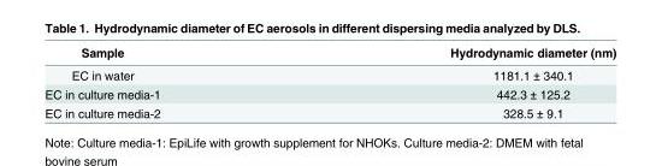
<table><thead><tr><td>Sample</td><td>Hydrodynamic diameter (nm)</td></tr></thead><tbody><tr><td>EC in water</td><td>1181.1 ± 340.1</td></tr><tr><td>EC in culture media-1</td><td>442.3 ± 125.2</td></tr><tr><td>EC in culture media-2</td><td>328.5 ± 9.1</td></tr></tbody></table>